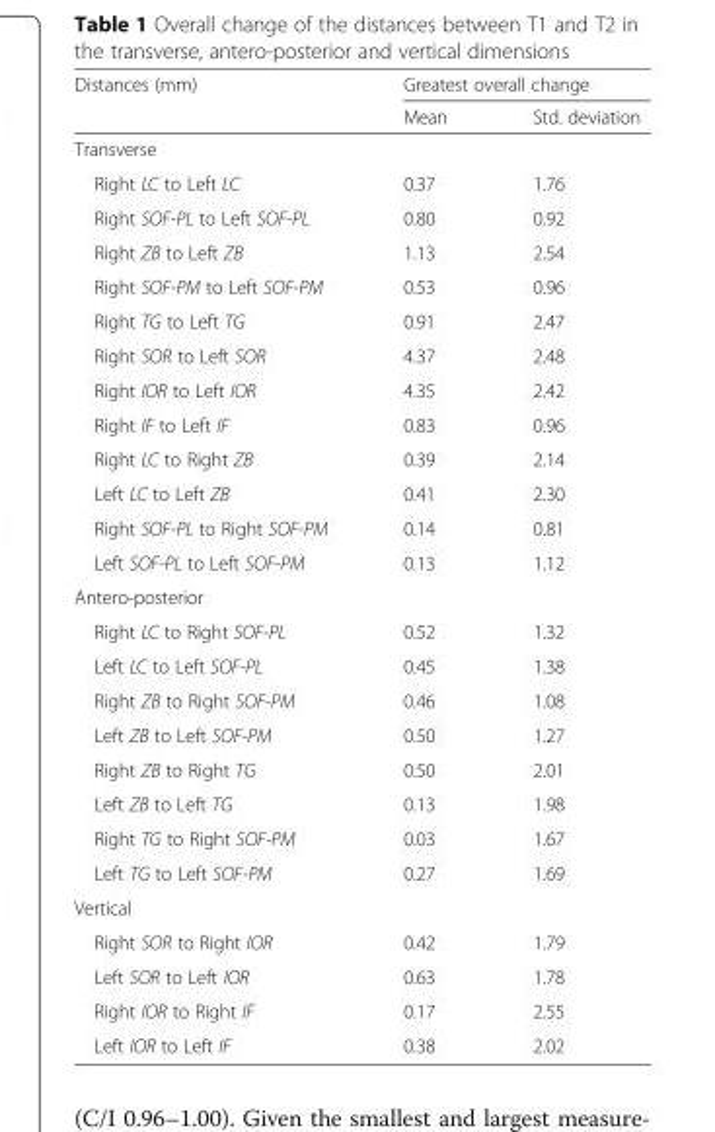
<table><thead><tr><td rowspan="2">Distances (mm)</td><td colspan="2">Greatest overall change</td></tr><tr><td>Mean</td><td>Std. deviation</td></tr></thead><tbody><tr><td colspan="3">Transverse</td></tr><tr><td>Right LC to Left LC</td><td>0.37</td><td>1.76</td></tr><tr><td>Right SOF-PL to Left SOF-PL</td><td>0.80</td><td>0.92</td></tr><tr><td>Right ZB to Left ZB</td><td>1.13</td><td>2.54</td></tr><tr><td>Right SOF-PM to Left SOF-PM</td><td>0.53</td><td>0.96</td></tr><tr><td>Right TG to Left TG</td><td>0.91</td><td>2.47</td></tr><tr><td>Right SOR to Left SOR</td><td>4.37</td><td>2.48</td></tr><tr><td>Right IOR to Left IOR</td><td>4.35</td><td>2.42</td></tr><tr><td>Right IF to Left IF</td><td>0.83</td><td>0.96</td></tr><tr><td>Right LC to Right ZB</td><td>0.39</td><td>2.14</td></tr><tr><td>Left LC to Left ZB</td><td>0.41</td><td>2.30</td></tr><tr><td>Right SOF-PL to Right SOF-PM</td><td>0.14</td><td>0.81</td></tr><tr><td>Left SOF-PL to Left SOF-PM</td><td>0.13</td><td>1.12</td></tr><tr><td colspan="3">Antero-posterior</td></tr><tr><td>Right LC to Right SOF-PL</td><td>0.52</td><td>1.32</td></tr><tr><td>Left LC to Left SOF-PL</td><td>0.45</td><td>1.38</td></tr><tr><td>Right ZB to Right SOF-PM</td><td>0.46</td><td>1.08</td></tr><tr><td>Left ZB to Left SOF-PM</td><td>0.50</td><td>1.27</td></tr><tr><td>Right ZB to Right TG</td><td>0.50</td><td>2.01</td></tr><tr><td>Left ZB to Left TG</td><td>0.13</td><td>1.98</td></tr><tr><td>Right TG to Right SOF-PM</td><td>0.03</td><td>1.67</td></tr><tr><td>Left TG to Left SOF-PM</td><td>0.27</td><td>1.69</td></tr><tr><td colspan="3">Vertical</td></tr><tr><td>Right SOR to Right IOR</td><td>0.42</td><td>1.79</td></tr><tr><td>Left SOR to Left IOR</td><td>0.63</td><td>1.78</td></tr><tr><td>Right IOR to Right IF</td><td>0.17</td><td>2.55</td></tr><tr><td>Left IOR to Left IF</td><td>0.38</td><td>2.02</td></tr></tbody></table>